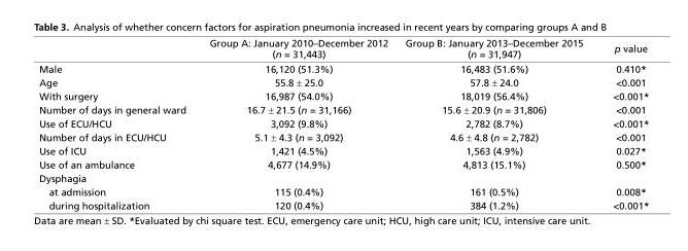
<table><thead><tr><td></td><td>Group A: January 2010–December 2012 (n = 31,443)</td><td>Group B: January 2013–December 2015 (n = 31,947)</td><td>p value</td></tr></thead><tbody><tr><td>Male</td><td>16,120 (51.3%)</td><td>16,483 (51.6%)</td><td>0.410*</td></tr><tr><td>Age</td><td>55.8 ± 25.0</td><td>57.8 ± 24.0</td><td>&lt;0.001</td></tr><tr><td>With surgery</td><td>16,987 (54.0%)</td><td>18,019 (56.4%)</td><td>&lt;0.001*</td></tr><tr><td>Number of days in general ward</td><td>16.7 ± 21.5 (n = 31,166)</td><td>15.6 ± 20.9 (n = 31,806)</td><td>&lt;0.001</td></tr><tr><td>Use of ECU/HCU</td><td>3,092 (9.8%)</td><td>2,782 (8.7%)</td><td>&lt;0.001*</td></tr><tr><td>Number of days in ECU/HCU</td><td>5.1 ± 4.3 (n = 3,092)</td><td>4.6 ± 4.8 (n = 2,782)</td><td>&lt;0.001</td></tr><tr><td>Use of ICU</td><td>1,421 (4.5%)</td><td>1,563 (4.9%)</td><td>0.027*</td></tr><tr><td>Use of an ambulance</td><td>4,677 (14.9%)</td><td>4,813 (15.1%)</td><td>0.500*</td></tr><tr><td colspan="4">Dysphagia</td></tr><tr><td>at admission</td><td>115 (0.4%)</td><td>161 (0.5%)</td><td>0.008*</td></tr><tr><td>during hospitalization</td><td>120 (0.4%)</td><td>384 (1.2%)</td><td>&lt;0.001*</td></tr></tbody></table>